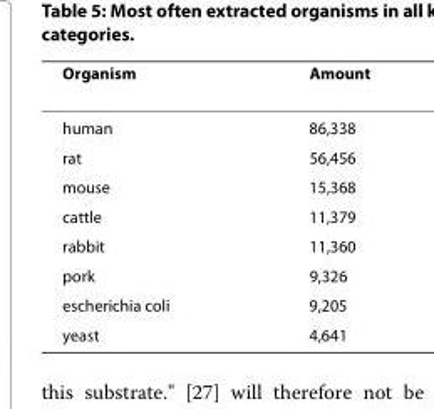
<table><thead><tr><td>Organism</td><td>Amount</td></tr></thead><tbody><tr><td>human</td><td>86,338</td></tr><tr><td>rat</td><td>56,456</td></tr><tr><td>mouse</td><td>15,368</td></tr><tr><td>cattle</td><td>11,379</td></tr><tr><td>rabbit</td><td>11,360</td></tr><tr><td>pork</td><td>9,326</td></tr><tr><td>escherichia coli</td><td>9,205</td></tr><tr><td>yeast</td><td>4,641</td></tr></tbody></table>